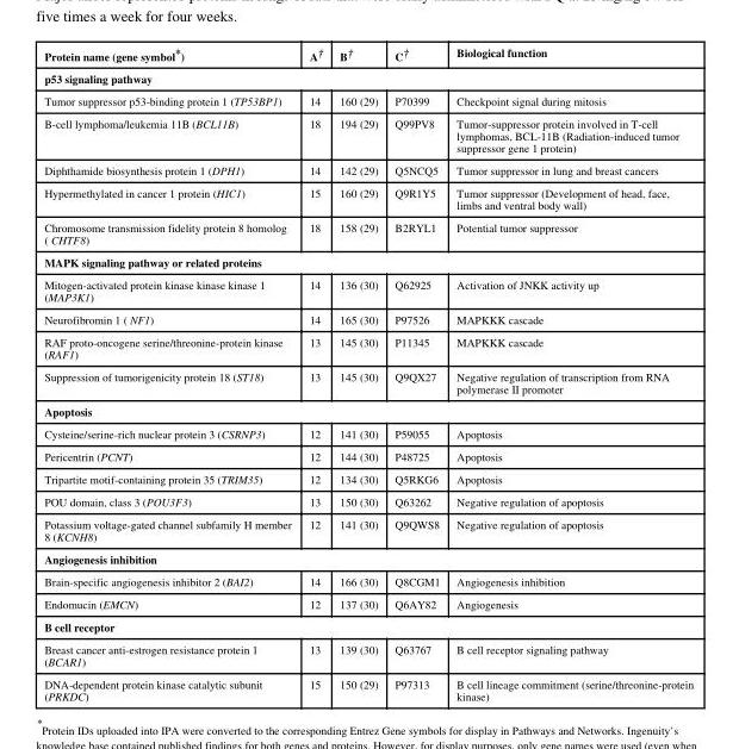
<table><thead><tr><td>Protein name (gene symbol*)</td><td>A†</td><td>B†</td><td>C†</td><td>Biological function</td></tr></thead><tbody><tr><td colspan="5">p53 signaling pathway</td></tr><tr><td>Tumor suppressor p53-binding protein 1 (TP53BP1)</td><td>14</td><td>160 (29)</td><td>P70399</td><td>Checkpoint signal during mitosis</td></tr><tr><td>B-cell lymphoma/leukemia 11B (BCL11B)</td><td>18</td><td>194 (29)</td><td>Q99PV8</td><td>Tumor-suppressor protein involved in T-cell lymphomas, BCL-11B (Radiation-induced tumor suppressor gene 1 protein)</td></tr><tr><td>Diphthamide biosynthesis protein 1 (DPH1)</td><td>14</td><td>142 (29)</td><td>Q5NCQ5</td><td>Tumor suppressor in lung and breast cancers</td></tr><tr><td>Hypermethylated in cancer 1 protein (HIC1)</td><td>15</td><td>160 (29)</td><td>Q9R1Y5</td><td>Tumor suppressor (Development of head, face, limbs and ventral body wall)</td></tr><tr><td>Chromosome transmission fidelity protein 8 homolog ( CHTF8)</td><td>18</td><td>158 (29)</td><td>B2RYL1</td><td>Potential tumor suppressor</td></tr><tr><td colspan="5">MAPK signaling pathway or related proteins</td></tr><tr><td>Mitogen-activated protein kinase kinase kinase 1 (MAP3K1)</td><td>14</td><td>136 (30)</td><td>Q62925</td><td>Activation of JNKK activity up</td></tr><tr><td>Neurofibromin 1 ( NF1)</td><td>14</td><td>165 (30)</td><td>P97526</td><td>MAPKKK cascade</td></tr><tr><td>RAF proto-oncogene serine/threonine-protein kinase (RAF1)</td><td>13</td><td>145 (30)</td><td>P11345</td><td>MAPKKK cascade</td></tr><tr><td>Suppression of tumorigenicity protein 18 (ST18)</td><td>13</td><td>145 (30)</td><td>Q9QX27</td><td>Negative regulation of transcription from RNA polymerase II promoter</td></tr><tr><td colspan="5">Apoptosis</td></tr><tr><td>Cysteine/serine-rich nuclear protein 3 (CSRNP3)</td><td>12</td><td>141 (30)</td><td>P59055</td><td>Apoptosis</td></tr><tr><td>Pericentrin (PCNT)</td><td>12</td><td>144 (30)</td><td>P48725</td><td>Apoptosis</td></tr><tr><td>Tripartite motif-containing protein 35 (TRIM35)</td><td>12</td><td>134 (30)</td><td>Q5RKG6</td><td>Apoptosis</td></tr><tr><td>POU domain, class 3 (POU3F3)</td><td>13</td><td>150 (30)</td><td>Q63262</td><td>Negative regulation of apoptosis</td></tr><tr><td>Potassium voltage-gated channel subfamily H member 8 (KCNH8)</td><td>12</td><td>141 (30)</td><td>Q9QWS8</td><td>Negative regulation of apoptosis</td></tr><tr><td colspan="5">Angiogenesis inhibition</td></tr><tr><td>Brain-specific angiogenesis inhibitor 2 (BAI2)</td><td>14</td><td>166 (30)</td><td>Q8CGM1</td><td>Angiogenesis inhibition</td></tr><tr><td>Endomucin (EMCN)</td><td>12</td><td>137 (30)</td><td>Q6AY82</td><td>Angiogenesis</td></tr><tr><td colspan="5">B cell receptor</td></tr><tr><td>Breast cancer anti-estrogen resistance protein 1 (BCAR1)</td><td>13</td><td>139 (30)</td><td>Q63767</td><td>B cell receptor signaling pathway</td></tr><tr><td>DNA-dependent protein kinase catalytic subunit (PRKDC)</td><td>15</td><td>150 (29)</td><td>P97313</td><td>B cell lineage commitment (serine/threonine-protein kinase)</td></tr></tbody></table>